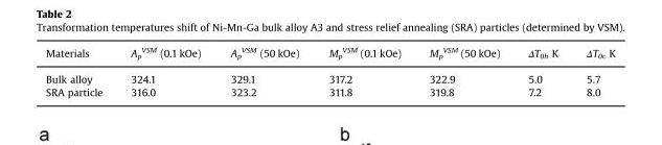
<table><thead><tr><td>Materials</td><td>A<sub>p</sub> <sup>VSM</sup> (0.1 kOe)</td><td>A<sub>p</sub> <sup>VSM</sup> (50 kOe)</td><td>M<sub>p</sub> <sup>VSM</sup> (0.1 kOe)</td><td>M<sub>p</sub> <sup>VSM</sup> (50 kOe)</td><td>ΔT<sub>0h</sub> K</td><td>ΔT<sub>0c</sub> K</td></tr></thead><tbody><tr><td>Bulk alloy</td><td>324.1</td><td>329.1</td><td>317.2</td><td>322.9</td><td>5.0</td><td>5.7</td></tr><tr><td>SRA particle</td><td>316.0</td><td>323.2</td><td>311.8</td><td>319.8</td><td>7.2</td><td>8.0</td></tr></tbody></table>